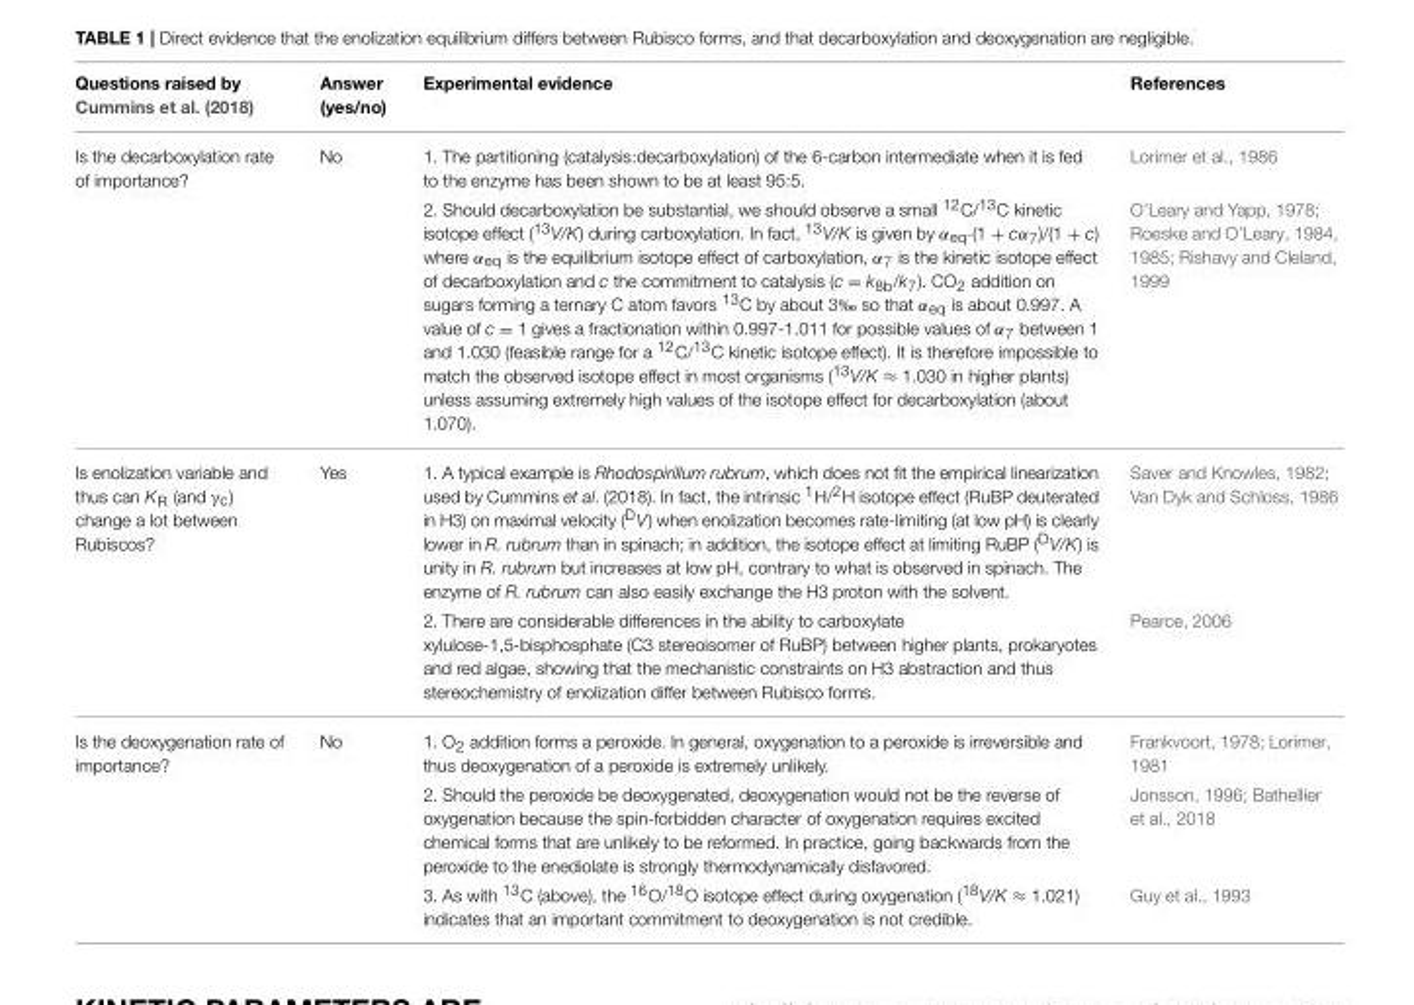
<table><thead><tr><td>Questions raised by Cummins et al. (2018)</td><td>Answer (yes/no)</td><td>Experimental evidence</td><td>References</td></tr></thead><tbody><tr><td rowspan="2">Is the decarboxylation rate of importance?</td><td>No</td><td>1. The partitioning (catalysis:decarboxylation) of the 6-carbon intermediate when it is fed to the enzyme has been shown to be at least 95:5.</td><td>Lorimer et al., 1986</td></tr><tr><td></td><td>2. Should decarboxylation be substantial, we should observe a small 12C/13C kinetic isotope effect (13V/K) during carboxylation. In fact, 13V/K is given by αeq·(1 + cα7)/(1 + c) where αeq is the equilibrium isotope effect of carboxylation, α7 is the kinetic isotope effect of decarboxylation and c the commitment to catalysis (c = k8b/k7). CO2 addition on sugars forming a ternary C atom favors 13C by about 3‰ so that αeq is about 0.997. A value of c = 1 gives a fractionation within 0.997-1.011 for possible values of α7 between 1 and 1.030 (feasible range for a 12C/13C kinetic isotope effect). It is therefore impossible to match the observed isotope effect in most organisms (13V/K ≈ 1.030 in higher plants) unless assuming extremely high values of the isotope effect for decarboxylation (about 1.070).</td><td>O’Leary and Yapp, 1978; Roeske and O’Leary, 1984, 1985; Rishavy and Cleland, 1999</td></tr><tr><td rowspan="2">Is enolization variable and thus can K<sub>R</sub> (and γ<sub>c</sub>) change a lot between Rubiscos?</td><td>Yes</td><td>1. A typical example is Rhodospirillum rubrum, which does not fit the empirical linearization used by Cummins et al. (2018). In fact, the intrinsic <sup>1</sup>H/<sup>2</sup>H isotope effect (RuBP deuterated in H3) on maximal velocity (<sup>D</sup>V) when enolization becomes rate-limiting (at low pH) is clearly lower in R. rubrum than in spinach; in addition, the isotope effect at limiting RuBP (<sup>D</sup>V/K) is unity in R. rubrum but increases at low pH, contrary to what is observed in spinach. The enzyme of R. rubrum can also easily exchange the H3 proton with the solvent.</td><td>Saver and Knowles, 1982; Van Dyk and Schloss, 1986</td></tr><tr><td></td><td>2. There are considerable differences in the ability to carboxylate xylulose-1,5-bisphosphate (C3 stereoisomer of RuBP) between higher plants, prokaryotes and red algae, showing that the mechanistic constraints on H3 abstraction and thus stereochemistry of enolization differ between Rubisco forms.</td><td>Pearce, 2006</td></tr><tr><td rowspan="3">Is the deoxygenation rate of importance?</td><td>No</td><td>1. O<sub>2</sub> addition forms a peroxide. In general, oxygenation to a peroxide is irreversible and thus deoxygenation of a peroxide is extremely unlikely.</td><td>Frankvoort, 1978; Lorimer, 1981</td></tr><tr><td></td><td>2. Should the peroxide be deoxygenated, deoxygenation would not be the reverse of oxygenation because the spin-forbidden character of oxygenation requires excited chemical forms that are unlikely to be reformed. In practice, going backwards from the peroxide to the enediolate is strongly thermodynamically disfavored.</td><td>Jonsson, 1996; Bathellier et al., 2018</td></tr><tr><td></td><td>3. As with <sup>13</sup>C (above), the <sup>16</sup>O/<sup>18</sup>O isotope effect during oxygenation (<sup>18</sup>V/K ≈ 1.021) indicates that an important commitment to deoxygenation is not credible.</td><td>Guy et al., 1993</td></tr></tbody></table>